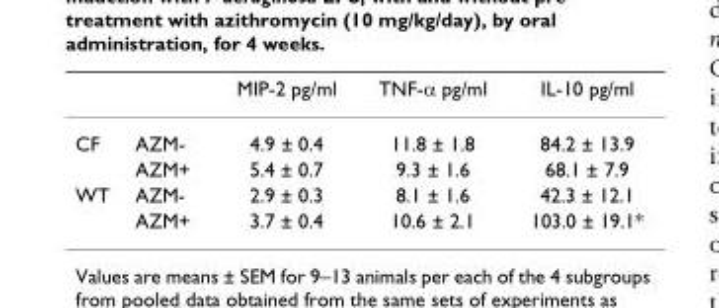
<table><thead><tr><td></td><td></td><td>MIP-2 pg/ml</td><td>TNF-α pg/ml</td><td>IL-10 pg/ml</td></tr></thead><tbody><tr><td rowspan="2">CF</td><td>AZM-</td><td>4.9 ± 0.4</td><td>11.8 ± 1.8</td><td>84.2 ± 13.9</td></tr><tr><td>AZM+</td><td>5.4 ± 0.7</td><td>9.3 ± 1.6</td><td>68.1 ± 7.9</td></tr><tr><td rowspan="2">WT</td><td>AZM-</td><td>2.9 ± 0.3</td><td>8.1 ± 1.6</td><td>42.3 ± 12.1</td></tr><tr><td>AZM+</td><td>3.7 ± 0.4</td><td>10.6 ± 2.1</td><td>103.0 ± 19.1*</td></tr></tbody></table>